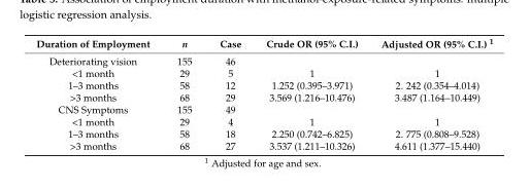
<table><thead><tr><td>Duration of Employment</td><td>n</td><td>Case</td><td>Crude OR (95% C.I.)</td><td>Adjusted OR (95% C.I.) <sup>1</sup></td></tr></thead><tbody><tr><td>Deteriorating vision</td><td>155</td><td>46</td><td></td><td></td></tr><tr><td>&lt;1 month</td><td>29</td><td>5</td><td>1</td><td>1</td></tr><tr><td>1–3 months</td><td>58</td><td>12</td><td>1.252 (0.395–3.971)</td><td>2. 242 (0.354–4.014)</td></tr><tr><td>&gt;3 months</td><td>68</td><td>29</td><td>3.569 (1.216–10.476)</td><td>3.487 (1.164–10.449)</td></tr><tr><td>CNS Symptoms</td><td>155</td><td>49</td><td></td><td></td></tr><tr><td>&lt;1 month</td><td>29</td><td>4</td><td>1</td><td>1</td></tr><tr><td>1–3 months</td><td>58</td><td>18</td><td>2.250 (0.742–6.825)</td><td>2. 775 (0.808–9.528)</td></tr><tr><td>&gt;3 months</td><td>68</td><td>27</td><td>3.537 (1.211–10.326)</td><td>4.611 (1.377–15.440)</td></tr></tbody></table>